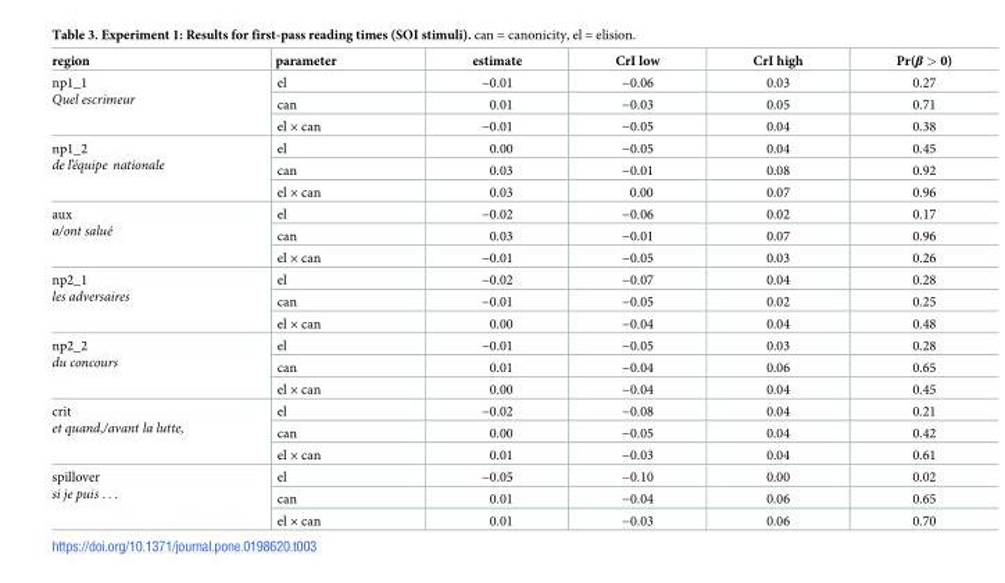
<table><thead><tr><td>region</td><td>parameter</td><td>estimate</td><td>CrI low</td><td>CrI high</td><td>Pr(β &gt; 0)</td></tr></thead><tbody><tr><td rowspan="3">np1_1 Quel escrimeur</td><td>el</td><td>−0.01</td><td>−0.06</td><td>0.03</td><td>0.27</td></tr><tr><td>can</td><td>0.01</td><td>−0.03</td><td>0.05</td><td>0.71</td></tr><tr><td>el × can</td><td>−0.01</td><td>−0.05</td><td>0.04</td><td>0.38</td></tr><tr><td rowspan="3">np1_2 de l’équipe nationale</td><td>el</td><td>0.00</td><td>−0.05</td><td>0.04</td><td>0.45</td></tr><tr><td>can</td><td>0.03</td><td>−0.01</td><td>0.08</td><td>0.92</td></tr><tr><td>el × can</td><td>0.03</td><td>0.00</td><td>0.07</td><td>0.96</td></tr><tr><td rowspan="3">aux a/ont salué</td><td>el</td><td>−0.02</td><td>−0.06</td><td>0.02</td><td>0.17</td></tr><tr><td>can</td><td>0.03</td><td>−0.01</td><td>0.07</td><td>0.96</td></tr><tr><td>el × can</td><td>−0.01</td><td>−0.05</td><td>0.03</td><td>0.26</td></tr><tr><td rowspan="3">np2_1 les adversaires</td><td>el</td><td>−0.02</td><td>−0.07</td><td>0.04</td><td>0.28</td></tr><tr><td>can</td><td>−0.01</td><td>−0.05</td><td>0.02</td><td>0.25</td></tr><tr><td>el × can</td><td>0.00</td><td>−0.04</td><td>0.04</td><td>0.48</td></tr><tr><td rowspan="3">np2_2 du concours</td><td>el</td><td>−0.01</td><td>−0.05</td><td>0.03</td><td>0.28</td></tr><tr><td>can</td><td>0.01</td><td>−0.04</td><td>0.06</td><td>0.65</td></tr><tr><td>el × can</td><td>0.00</td><td>−0.04</td><td>0.04</td><td>0.45</td></tr><tr><td rowspan="3">crit et quand,/avant la lutte,</td><td>el</td><td>−0.02</td><td>−0.08</td><td>0.04</td><td>0.21</td></tr><tr><td>can</td><td>0.00</td><td>−0.05</td><td>0.04</td><td>0.42</td></tr><tr><td>el × can</td><td>0.01</td><td>−0.03</td><td>0.04</td><td>0.61</td></tr><tr><td rowspan="3">spillover si je puis . . .</td><td>el</td><td>−0.05</td><td>−0.10</td><td>0.00</td><td>0.02</td></tr><tr><td>can</td><td>0.01</td><td>−0.04</td><td>0.06</td><td>0.65</td></tr><tr><td>el × can</td><td>0.01</td><td>−0.03</td><td>0.06</td><td>0.70</td></tr></tbody></table>